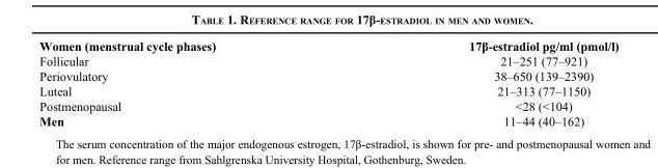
<table><thead><tr><td>Women (menstrual cycle phases)</td><td>17β-estradiol pg/ml (pmol/l)</td></tr></thead><tbody><tr><td>Follicular</td><td>21–251 (77–921)</td></tr><tr><td>Periovulatory</td><td>38–650 (139–2390)</td></tr><tr><td>Luteal</td><td>21–313 (77–1150)</td></tr><tr><td>Postmenopausal</td><td>&lt;28 (&lt;104)</td></tr><tr><td>Men</td><td>11–44 (40–162)</td></tr></tbody></table>